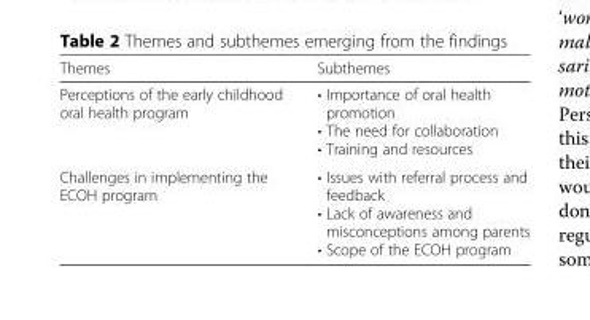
<table><thead><tr><td>Themes</td><td>Subthemes</td></tr></thead><tbody><tr><td>Perceptions of the early childhood oral health program</td><td>• Importance of oral health promotion • The need for collaboration • Training and resources</td></tr><tr><td>Challenges in implementing the ECOH program</td><td>• Issues with referral process and feedback • Lack of awareness and misconceptions among parents • Scope of the ECOH program</td></tr></tbody></table>